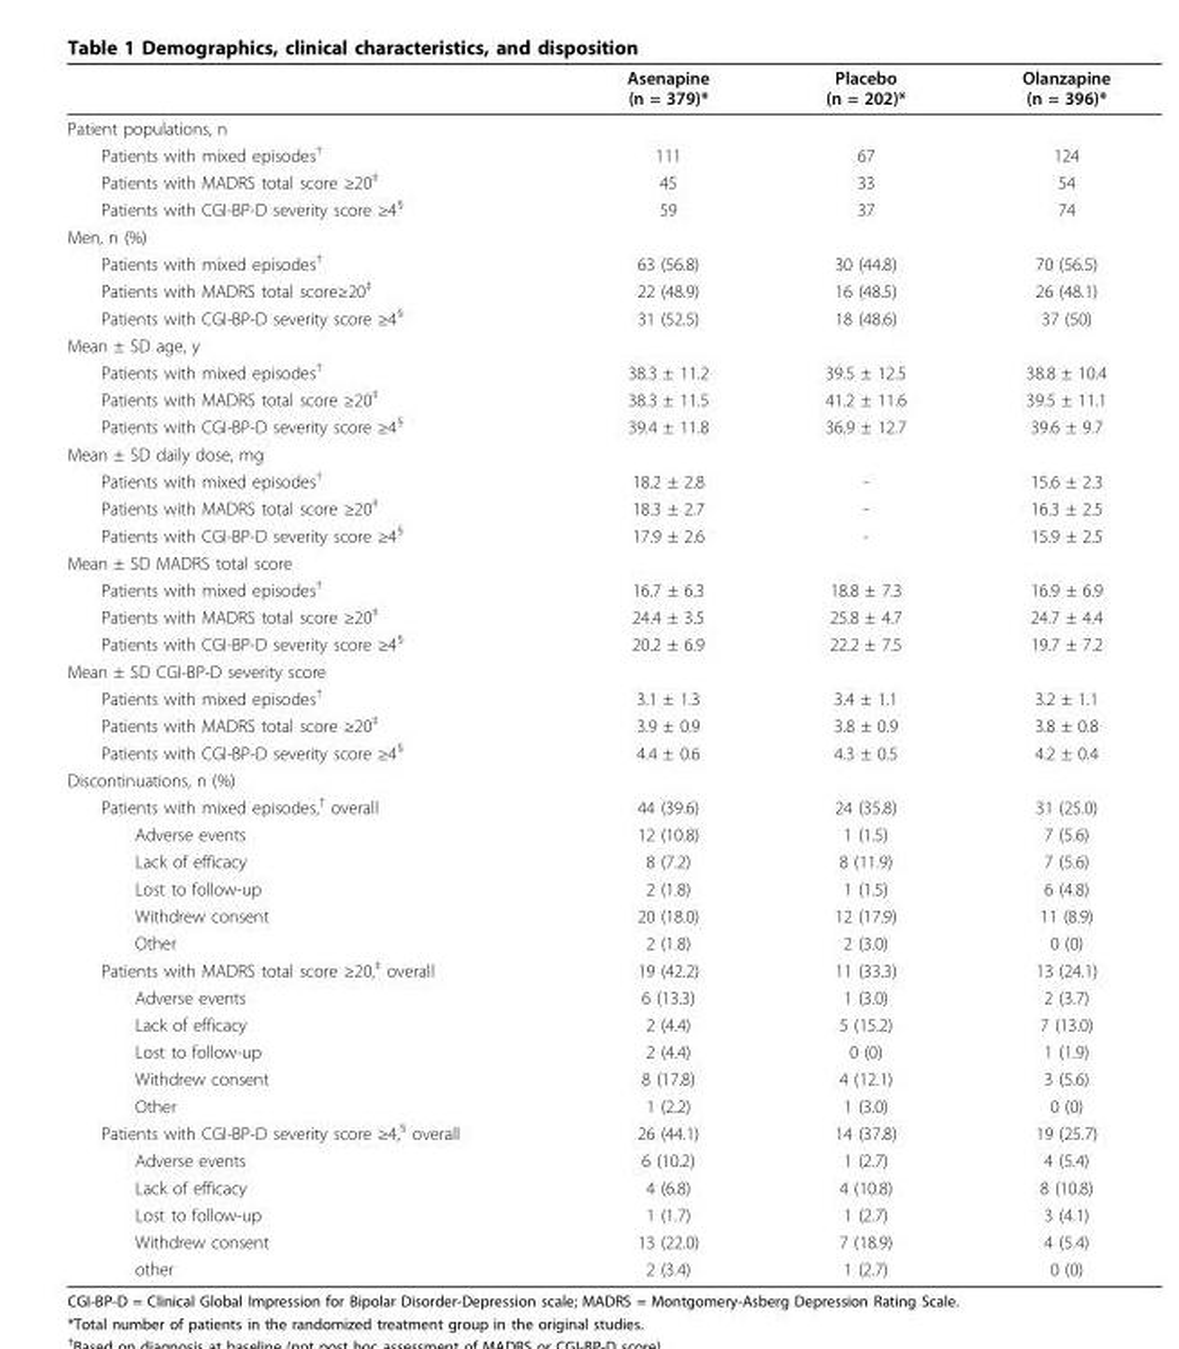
<table><thead><tr><td></td><td>Asenapine (n = 379)*</td><td>Placebo (n = 202)*</td><td>Olanzapine (n = 396)*</td></tr></thead><tbody><tr><td colspan="4">Patient populations, n</td></tr><tr><td>Patients with mixed episodes<sup>†</sup></td><td>111</td><td>67</td><td>124</td></tr><tr><td>Patients with MADRS total score ≥20<sup>‡</sup></td><td>45</td><td>33</td><td>54</td></tr><tr><td>Patients with CGI-BP-D severity score ≥4<sup>§</sup></td><td>59</td><td>37</td><td>74</td></tr><tr><td colspan="4">Men, n (%)</td></tr><tr><td>Patients with mixed episodes<sup>†</sup></td><td>63 (56.8)</td><td>30 (44.8)</td><td>70 (56.5)</td></tr><tr><td>Patients with MADRS total score≥20<sup>‡</sup></td><td>22 (48.9)</td><td>16 (48.5)</td><td>26 (48.1)</td></tr><tr><td>Patients with CGI-BP-D severity score ≥4<sup>§</sup></td><td>31 (52.5)</td><td>18 (48.6)</td><td>37 (50)</td></tr><tr><td colspan="4">Mean ± SD age, y</td></tr><tr><td>Patients with mixed episodes<sup>†</sup></td><td>38.3 ± 11.2</td><td>39.5 ± 12.5</td><td>38.8 ± 10.4</td></tr><tr><td>Patients with MADRS total score ≥20<sup>‡</sup></td><td>38.3 ± 11.5</td><td>41.2 ± 11.6</td><td>39.5 ± 11.1</td></tr><tr><td>Patients with CGI-BP-D severity score ≥4<sup>§</sup></td><td>39.4 ± 11.8</td><td>36.9 ± 12.7</td><td>39.6 ± 9.7</td></tr><tr><td colspan="4">Mean ± SD daily dose, mg</td></tr><tr><td>Patients with mixed episodes<sup>†</sup></td><td>18.2 ± 2.8</td><td>-</td><td>15.6 ± 2.3</td></tr><tr><td>Patients with MADRS total score ≥20<sup>‡</sup></td><td>18.3 ± 2.7</td><td>-</td><td>16.3 ± 2.5</td></tr><tr><td>Patients with CGI-BP-D severity score ≥4<sup>§</sup></td><td>17.9 ± 2.6</td><td>-</td><td>15.9 ± 2.5</td></tr><tr><td colspan="4">Mean ± SD MADRS total score</td></tr><tr><td>Patients with mixed episodes<sup>†</sup></td><td>16.7 ± 6.3</td><td>18.8 ± 7.3</td><td>16.9 ± 6.9</td></tr><tr><td>Patients with MADRS total score ≥20<sup>‡</sup></td><td>24.4 ± 3.5</td><td>25.8 ± 4.7</td><td>24.7 ± 4.4</td></tr><tr><td>Patients with CGI-BP-D severity score ≥4<sup>§</sup></td><td>20.2 ± 6.9</td><td>22.2 ± 7.5</td><td>19.7 ± 7.2</td></tr><tr><td colspan="4">Mean ± SD CGI-BP-D severity score</td></tr><tr><td>Patients with mixed episodes<sup>†</sup></td><td>3.1 ± 1.3</td><td>3.4 ± 1.1</td><td>3.2 ± 1.1</td></tr><tr><td>Patients with MADRS total score ≥20<sup>‡</sup></td><td>3.9 ± 0.9</td><td>3.8 ± 0.9</td><td>3.8 ± 0.8</td></tr><tr><td>Patients with CGI-BP-D severity score ≥4<sup>§</sup></td><td>4.4 ± 0.6</td><td>4.3 ± 0.5</td><td>4.2 ± 0.4</td></tr><tr><td colspan="4">Discontinuations, n (%)</td></tr><tr><td>Patients with mixed episodes,<sup>†</sup> overall</td><td>44 (39.6)</td><td>24 (35.8)</td><td>31 (25.0)</td></tr><tr><td>Adverse events</td><td>12 (10.8)</td><td>1 (1.5)</td><td>7 (5.6)</td></tr><tr><td>Lack of efficacy</td><td>8 (7.2)</td><td>8 (11.9)</td><td>7 (5.6)</td></tr><tr><td>Lost to follow-up</td><td>2 (1.8)</td><td>1 (1.5)</td><td>6 (4.8)</td></tr><tr><td>Withdrew consent</td><td>20 (18.0)</td><td>12 (17.9)</td><td>11 (8.9)</td></tr><tr><td>Other</td><td>2 (1.8)</td><td>2 (3.0)</td><td>0 (0)</td></tr><tr><td>Patients with MADRS total score ≥20,<sup>‡</sup> overall</td><td>19 (42.2)</td><td>11 (33.3)</td><td>13 (24.1)</td></tr><tr><td>Adverse events</td><td>6 (13.3)</td><td>1 (3.0)</td><td>2 (3.7)</td></tr><tr><td>Lack of efficacy</td><td>2 (4.4)</td><td>5 (15.2)</td><td>7 (13.0)</td></tr><tr><td>Lost to follow-up</td><td>2 (4.4)</td><td>0 (0)</td><td>1 (1.9)</td></tr><tr><td>Withdrew consent</td><td>8 (17.8)</td><td>4 (12.1)</td><td>3 (5.6)</td></tr><tr><td>Other</td><td>1 (2.2)</td><td>1 (3.0)</td><td>0 (0)</td></tr><tr><td>Patients with CGI-BP-D severity score ≥4,<sup>§</sup> overall</td><td>26 (44.1)</td><td>14 (37.8)</td><td>19 (25.7)</td></tr><tr><td>Adverse events</td><td>6 (10.2)</td><td>1 (2.7)</td><td>4 (5.4)</td></tr><tr><td>Lack of efficacy</td><td>4 (6.8)</td><td>4 (10.8)</td><td>8 (10.8)</td></tr><tr><td>Lost to follow-up</td><td>1 (1.7)</td><td>1 (2.7)</td><td>3 (4.1)</td></tr><tr><td>Withdrew consent</td><td>13 (22.0)</td><td>7 (18.9)</td><td>4 (5.4)</td></tr><tr><td>other</td><td>2 (3.4)</td><td>1 (2.7)</td><td>0 (0)</td></tr></tbody></table>